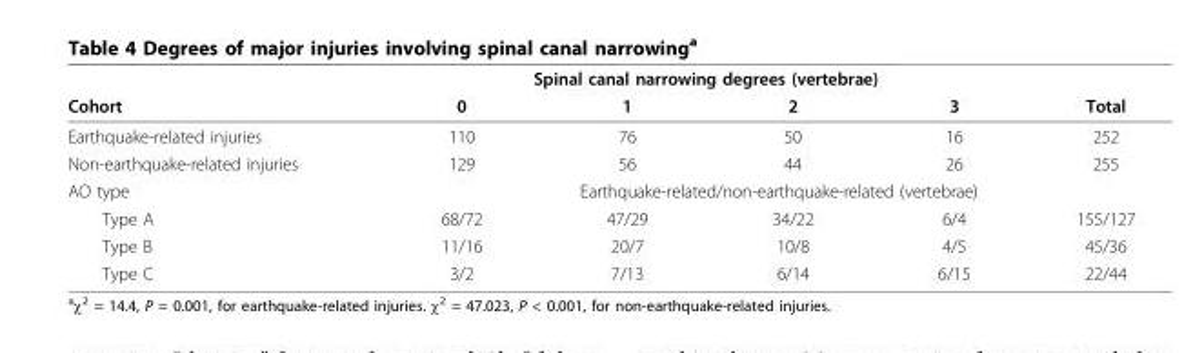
<table><thead><tr><td rowspan="2">Cohort</td><td colspan="4">Spinal canal narrowing degrees (vertebrae)</td><td rowspan="2">Total</td></tr><tr><td>0</td><td>1</td><td>2</td><td>3</td></tr></thead><tbody><tr><td>Earthquake-related injuries</td><td>110</td><td>76</td><td>50</td><td>16</td><td>252</td></tr><tr><td>Non-earthquake-related injuries</td><td>129</td><td>56</td><td>44</td><td>26</td><td>255</td></tr><tr><td>AO type</td><td colspan="5">Earthquake-related/non-earthquake-related (vertebrae)</td></tr><tr><td>Type A</td><td>68/72</td><td>47/29</td><td>34/22</td><td>6/4</td><td>155/127</td></tr><tr><td>Type B</td><td>11/16</td><td>20/7</td><td>10/8</td><td>4/5</td><td>45/36</td></tr><tr><td>Type C</td><td>3/2</td><td>7/13</td><td>6/14</td><td>6/15</td><td>22/44</td></tr></tbody></table>